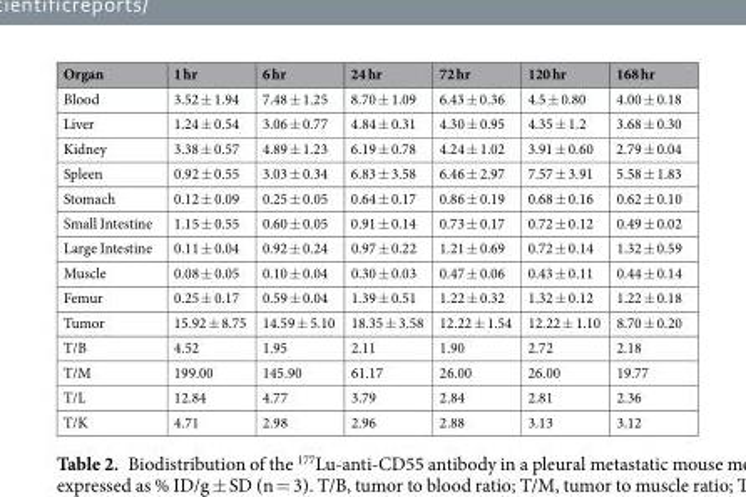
<table><thead><tr><td>Organ</td><td>1 hr</td><td>6 hr</td><td>24 hr</td><td>72 hr</td><td>120 hr</td><td>168 hr</td></tr></thead><tbody><tr><td>Blood</td><td>3.52 ± 1.94</td><td>7.48 ± 1.25</td><td>8.70 ± 1.09</td><td>6.43 ± 0.36</td><td>4.5 ± 0.80</td><td>4.00 ± 0.18</td></tr><tr><td>Liver</td><td>1.24 ± 0.54</td><td>3.06 ± 0.77</td><td>4.84 ± 0.31</td><td>4.30 ± 0.95</td><td>4.35 ± 1.2</td><td>3.68 ± 0.30</td></tr><tr><td>Kidney</td><td>3.38 ± 0.57</td><td>4.89 ± 1.23</td><td>6.19 ± 0.78</td><td>4.24 ± 1.02</td><td>3.91 ± 0.60</td><td>2.79 ± 0.04</td></tr><tr><td>Spleen</td><td>0.92 ± 0.55</td><td>3.03 ± 0.34</td><td>6.83 ± 3.58</td><td>6.46 ± 2.97</td><td>7.57 ± 3.91</td><td>5.58 ± 1.83</td></tr><tr><td>Stomach</td><td>0.12 ± 0.09</td><td>0.25 ± 0.05</td><td>0.64 ± 0.17</td><td>0.86 ± 0.19</td><td>0.68 ± 0.16</td><td>0.62 ± 0.10</td></tr><tr><td>Small Intestine</td><td>1.15 ± 0.55</td><td>0.60 ± 0.05</td><td>0.91 ± 0.14</td><td>0.73 ± 0.17</td><td>0.72 ± 0.12</td><td>0.49 ± 0.02</td></tr><tr><td>Large Intestine</td><td>0.11 ± 0.04</td><td>0.92 ± 0.24</td><td>0.97 ± 0.22</td><td>1.21 ± 0.69</td><td>0.72 ± 0.14</td><td>1.32 ± 0.59</td></tr><tr><td>Muscle</td><td>0.08 ± 0.05</td><td>0.10 ± 0.04</td><td>0.30 ± 0.03</td><td>0.47 ± 0.06</td><td>0.43 ± 0.11</td><td>0.44 ± 0.14</td></tr><tr><td>Femur</td><td>0.25 ± 0.17</td><td>0.59 ± 0.04</td><td>1.39 ± 0.51</td><td>1.22 ± 0.32</td><td>1.32 ± 0.12</td><td>1.22 ± 0.18</td></tr><tr><td>Tumor</td><td>15.92 ± 8.75</td><td>14.59 ± 5.10</td><td>18.35 ± 3.58</td><td>12.22 ± 1.54</td><td>12.22 ± 1.10</td><td>8.70 ± 0.20</td></tr><tr><td>T/B</td><td>4.52</td><td>1.95</td><td>2.11</td><td>1.90</td><td>2.72</td><td>2.18</td></tr><tr><td>T/M</td><td>199.00</td><td>145.90</td><td>61.17</td><td>26.00</td><td>26.00</td><td>19.77</td></tr><tr><td>T/L</td><td>12.84</td><td>4.77</td><td>3.79</td><td>2.84</td><td>2.81</td><td>2.36</td></tr><tr><td>T/K</td><td>4.71</td><td>2.98</td><td>2.96</td><td>2.88</td><td>3.13</td><td>3.12</td></tr></tbody></table>